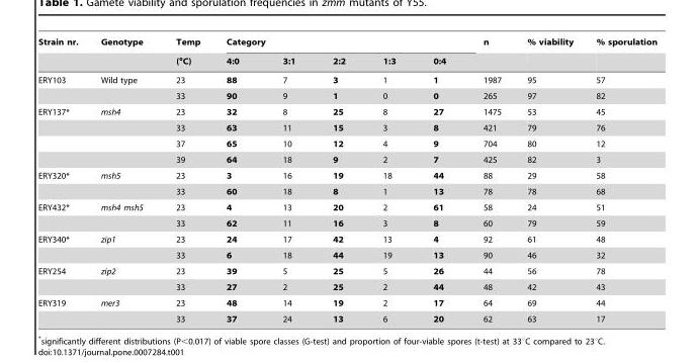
<table><thead><tr><td rowspan="2">Strain nr.</td><td rowspan="2">Genotype</td><td rowspan="2">Temp (°C)</td><td colspan="5">Category</td><td rowspan="2">n</td><td rowspan="2">% viability</td><td rowspan="2">% sporulation</td></tr><tr><td>4:0</td><td>3:1</td><td>2:2</td><td>1:3</td><td>0:4</td></tr></thead><tbody><tr><td rowspan="2">ERY103</td><td>Wild type</td><td>23</td><td>88</td><td>7</td><td>3</td><td>1</td><td>1</td><td>1987</td><td>95</td><td>57</td></tr><tr><td></td><td>33</td><td>90</td><td>9</td><td>1</td><td>0</td><td>0</td><td>265</td><td>97</td><td>82</td></tr><tr><td rowspan="4">ERY137*</td><td>msh4</td><td>23</td><td>32</td><td>8</td><td>25</td><td>8</td><td>27</td><td>1475</td><td>53</td><td>45</td></tr><tr><td></td><td>33</td><td>63</td><td>11</td><td>15</td><td>3</td><td>8</td><td>421</td><td>79</td><td>76</td></tr><tr><td></td><td>37</td><td>65</td><td>10</td><td>12</td><td>4</td><td>9</td><td>704</td><td>80</td><td>12</td></tr><tr><td></td><td>39</td><td>64</td><td>18</td><td>9</td><td>2</td><td>7</td><td>425</td><td>82</td><td>3</td></tr><tr><td rowspan="2">ERY320*</td><td>msh5</td><td>23</td><td>3</td><td>16</td><td>19</td><td>18</td><td>44</td><td>88</td><td>29</td><td>58</td></tr><tr><td></td><td>33</td><td>60</td><td>18</td><td>8</td><td>1</td><td>13</td><td>78</td><td>78</td><td>68</td></tr><tr><td rowspan="2">ERY432*</td><td>msh4 msh5</td><td>23</td><td>4</td><td>13</td><td>20</td><td>2</td><td>61</td><td>58</td><td>24</td><td>51</td></tr><tr><td></td><td>33</td><td>62</td><td>11</td><td>16</td><td>3</td><td>8</td><td>60</td><td>79</td><td>59</td></tr><tr><td rowspan="2">ERY340*</td><td>zip1</td><td>23</td><td>24</td><td>17</td><td>42</td><td>13</td><td>4</td><td>92</td><td>61</td><td>48</td></tr><tr><td></td><td>33</td><td>6</td><td>18</td><td>44</td><td>19</td><td>13</td><td>90</td><td>46</td><td>32</td></tr><tr><td rowspan="2">ERY254</td><td>zip2</td><td>23</td><td>39</td><td>5</td><td>25</td><td>5</td><td>26</td><td>44</td><td>56</td><td>78</td></tr><tr><td></td><td>33</td><td>27</td><td>2</td><td>25</td><td>2</td><td>44</td><td>48</td><td>42</td><td>43</td></tr><tr><td rowspan="2">ERY319</td><td>mer3</td><td>23</td><td>48</td><td>14</td><td>19</td><td>2</td><td>17</td><td>64</td><td>69</td><td>44</td></tr><tr><td></td><td>33</td><td>37</td><td>24</td><td>13</td><td>6</td><td>20</td><td>62</td><td>63</td><td>17</td></tr></tbody></table>